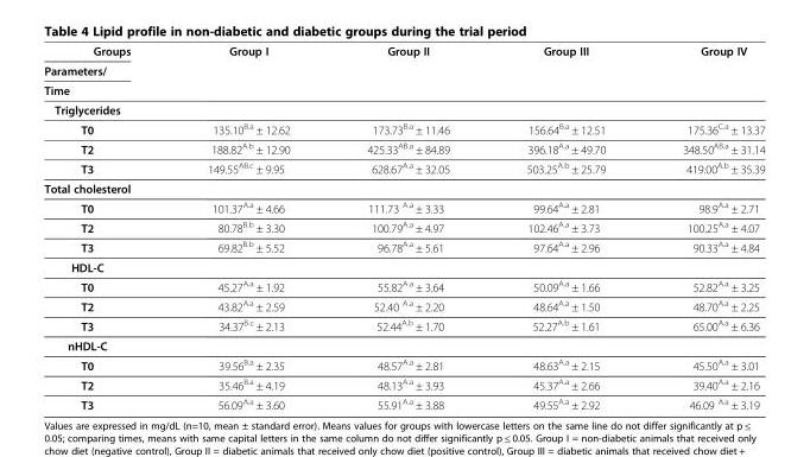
<table><thead><tr><td rowspan="3">Groups Parameters/ Time</td><td rowspan="3">Group I</td><td rowspan="3">Group II</td><td rowspan="3">Group III</td><td rowspan="3">Group IV</td></tr><tr></tr><tr></tr></thead><tbody><tr><td colspan="5">Triglycerides</td></tr><tr><td>T0</td><td>135.10<sup>B.a</sup> ± 12.62</td><td>173.73<sup>B.a</sup> ± 11.46</td><td>156.64<sup>B.a</sup> ± 12.51</td><td>175.36<sup>C.a</sup> ± 13.37</td></tr><tr><td>T2</td><td>188.82<sup>A.b</sup> ± 12.90</td><td>425.33<sup>AB.a</sup> ± 84.89</td><td>396.18<sup>A.a</sup> ± 49.70</td><td>348.50<sup>AB.a</sup> ± 31.14</td></tr><tr><td>T3</td><td>149.55<sup>AB.c</sup> ± 9.95</td><td>628.67<sup>A.a</sup> ± 32.05</td><td>503.25<sup>A.b</sup> ± 25.79</td><td>419.00<sup>A.b</sup> ± 35.39</td></tr><tr><td colspan="5">Total cholesterol</td></tr><tr><td>T0</td><td>101.37<sup>A.a</sup> ± 4.66</td><td>111.73 <sup>A.a</sup> ± 3.33</td><td>99.64<sup>A.a</sup> ± 2.81</td><td>98.9<sup>A.a</sup> ± 2.71</td></tr><tr><td>T2</td><td>80.78<sup>B.b</sup> ± 3.30</td><td>100.79<sup>A.a</sup> ± 4.97</td><td>102.46<sup>A.a</sup> ± 3.73</td><td>100.25<sup>A.a</sup> ± 4.07</td></tr><tr><td>T3</td><td>69.82<sup>B.b</sup> ± 5.52</td><td>96.78<sup>A.a</sup> ± 5.61</td><td>97.64<sup>A.a</sup> ± 2.96</td><td>90.33<sup>A.a</sup> ± 4.84</td></tr><tr><td colspan="5">HDL-C</td></tr><tr><td>T0</td><td>45.27<sup>A.a</sup> ± 1.92</td><td>55.82<sup>A.a</sup> ± 3.64</td><td>50.09<sup>A.a</sup> ± 1.66</td><td>52.82<sup>A.a</sup> ± 3.25</td></tr><tr><td>T2</td><td>43.82<sup>A.a</sup> ± 2.59</td><td>52.40 <sup>A.a</sup> ± 2.20</td><td>48.64<sup>A.a</sup> ± 1.50</td><td>48.70<sup>A.a</sup> ± 2.25</td></tr><tr><td>T3</td><td>34.37<sup>B.c</sup> ± 2.13</td><td>52.44<sup>A.b</sup> ± 1.70</td><td>52.27<sup>A.b</sup> ± 1.61</td><td>65.00<sup>A.a</sup> ± 6.36</td></tr><tr><td colspan="5">nHDL-C</td></tr><tr><td>T0</td><td>39.56<sup>B.a</sup> ± 2.35</td><td>48.57<sup>A.a</sup> ± 2.81</td><td>48.63<sup>A.a</sup> ± 2.15</td><td>45.50<sup>A.a</sup> ± 3.01</td></tr><tr><td>T2</td><td>35.46<sup>B.a</sup> ± 4.19</td><td>48.13<sup>A.a</sup> ± 3.93</td><td>45.37<sup>A.a</sup> ± 2.66</td><td>39.40<sup>A.a</sup> ± 2.16</td></tr><tr><td>T3</td><td>56.09<sup>A.a</sup> ± 3.60</td><td>55.91<sup>A.a</sup> ± 3.88</td><td>49.55<sup>A.a</sup> ± 2.92</td><td>46.09 <sup>A.a</sup> ± 3.19</td></tr></tbody></table>